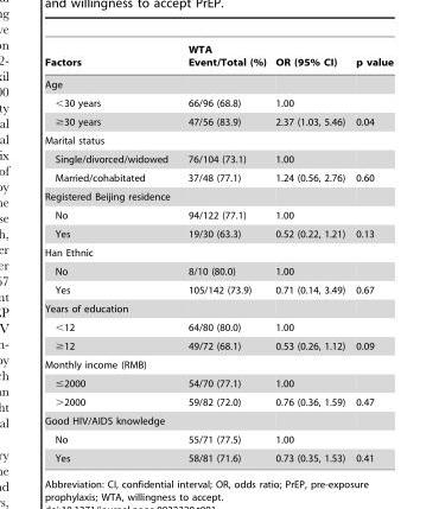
<table><thead><tr><td>Factors</td><td>WTA Event/Total (%)</td><td>OR (95% CI)</td><td>p value</td></tr></thead><tbody><tr><td colspan="4">Age</td></tr><tr><td>&lt;30 years</td><td>66/96 (68.8)</td><td>1.00</td><td></td></tr><tr><td>≥30 years</td><td>47/56 (83.9)</td><td>2.37 (1.03, 5.46)</td><td>0.04</td></tr><tr><td colspan="4">Marital status</td></tr><tr><td>Single/divorced/widowed</td><td>76/104 (73.1)</td><td>1.00</td><td></td></tr><tr><td>Married/cohabitated</td><td>37/48 (77.1)</td><td>1.24 (0.56, 2.76)</td><td>0.60</td></tr><tr><td colspan="4">Registered Beijing residence</td></tr><tr><td>No</td><td>94/122 (77.1)</td><td>1.00</td><td></td></tr><tr><td>Yes</td><td>19/30 (63.3)</td><td>0.52 (0.22, 1.21)</td><td>0.13</td></tr><tr><td colspan="4">Han Ethnic</td></tr><tr><td>No</td><td>8/10 (80.0)</td><td>1.00</td><td></td></tr><tr><td>Yes</td><td>105/142 (73.9)</td><td>0.71 (0.14, 3.49)</td><td>0.67</td></tr><tr><td colspan="4">Years of education</td></tr><tr><td>&lt;12</td><td>64/80 (80.0)</td><td>1.00</td><td></td></tr><tr><td>≥12</td><td>49/72 (68.1)</td><td>0.53 (0.26, 1.12)</td><td>0.09</td></tr><tr><td colspan="4">Monthly income (RMB)</td></tr><tr><td>≤2000</td><td>54/70 (77.1)</td><td>1.00</td><td></td></tr><tr><td>&gt;2000</td><td>59/82 (72.0)</td><td>0.76 (0.36, 1.59)</td><td>0.47</td></tr><tr><td colspan="4">Good HIV/AIDS knowledge</td></tr><tr><td>No</td><td>55/71 (77.5)</td><td>1.00</td><td></td></tr><tr><td>Yes</td><td>58/81 (71.6)</td><td>0.73 (0.35, 1.53)</td><td>0.41</td></tr></tbody></table>